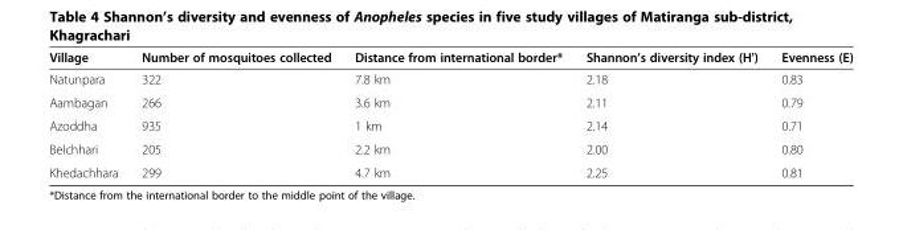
<table><thead><tr><td>Village</td><td>Number of mosquitoes collected</td><td>Distance from international border*</td><td>Shannon’s diversity index (H&#x27;)</td><td>Evenness (E)</td></tr></thead><tbody><tr><td>Natunpara</td><td>322</td><td>7.8 km</td><td>2.18</td><td>0.83</td></tr><tr><td>Aambagan</td><td>266</td><td>3.6 km</td><td>2.11</td><td>0.79</td></tr><tr><td>Azoddha</td><td>935</td><td>1 km</td><td>2.14</td><td>0.71</td></tr><tr><td>Belchhari</td><td>205</td><td>2.2 km</td><td>2.00</td><td>0.80</td></tr><tr><td>Khedachhara</td><td>299</td><td>4.7 km</td><td>2.25</td><td>0.81</td></tr></tbody></table>